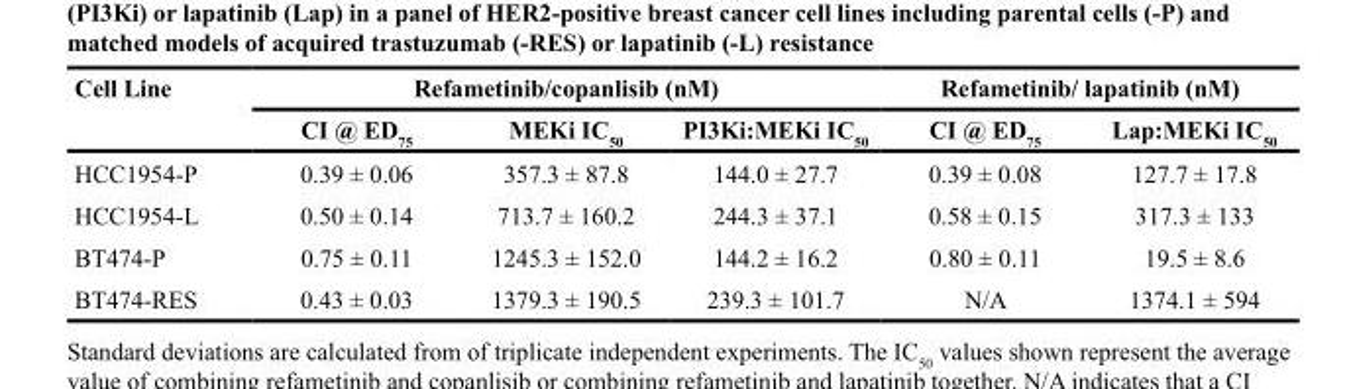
<table><thead><tr><td rowspan="2">Cell Line</td><td colspan="3">Refametinib/copanlisib (nM)</td><td colspan="2">Refametinib/ lapatinib (nM)</td></tr><tr><td>CI @ ED<sub>75</sub></td><td>MEKi IC<sub>50</sub></td><td>PI3Ki:MEKi IC<sub>50</sub></td><td>CI @ ED<sub>75</sub></td><td>Lap:MEKi IC<sub>50</sub></td></tr></thead><tbody><tr><td>HCC1954-P</td><td>0.39 ± 0.06</td><td>357.3 ± 87.8</td><td>144.0 ± 27.7</td><td>0.39 ± 0.08</td><td>127.7 ± 17.8</td></tr><tr><td>HCC1954-L</td><td>0.50 ± 0.14</td><td>713.7 ± 160.2</td><td>244.3 ± 37.1</td><td>0.58 ± 0.15</td><td>317.3 ± 133</td></tr><tr><td>BT474-P</td><td>0.75 ± 0.11</td><td>1245.3 ± 152.0</td><td>144.2 ± 16.2</td><td>0.80 ± 0.11</td><td>19.5 ± 8.6</td></tr><tr><td>BT474-RES</td><td>0.43 ± 0.03</td><td>1379.3 ± 190.5</td><td>239.3 ± 101.7</td><td>N/A</td><td>1374.1 ± 594</td></tr></tbody></table>